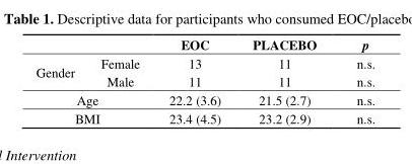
<table><thead><tr><td></td><td></td><td>EOC</td><td>PLACEBO</td><td>p</td></tr></thead><tbody><tr><td rowspan="2">Gender</td><td>Female</td><td>13</td><td>11</td><td>n.s.</td></tr><tr><td>Male</td><td>11</td><td>11</td><td>n.s.</td></tr><tr><td colspan="2">Age</td><td>22.2 (3.6)</td><td>21.5 (2.7)</td><td>n.s.</td></tr><tr><td colspan="2">BMI</td><td>23.4 (4.5)</td><td>23.2 (2.9)</td><td>n.s.</td></tr></tbody></table>